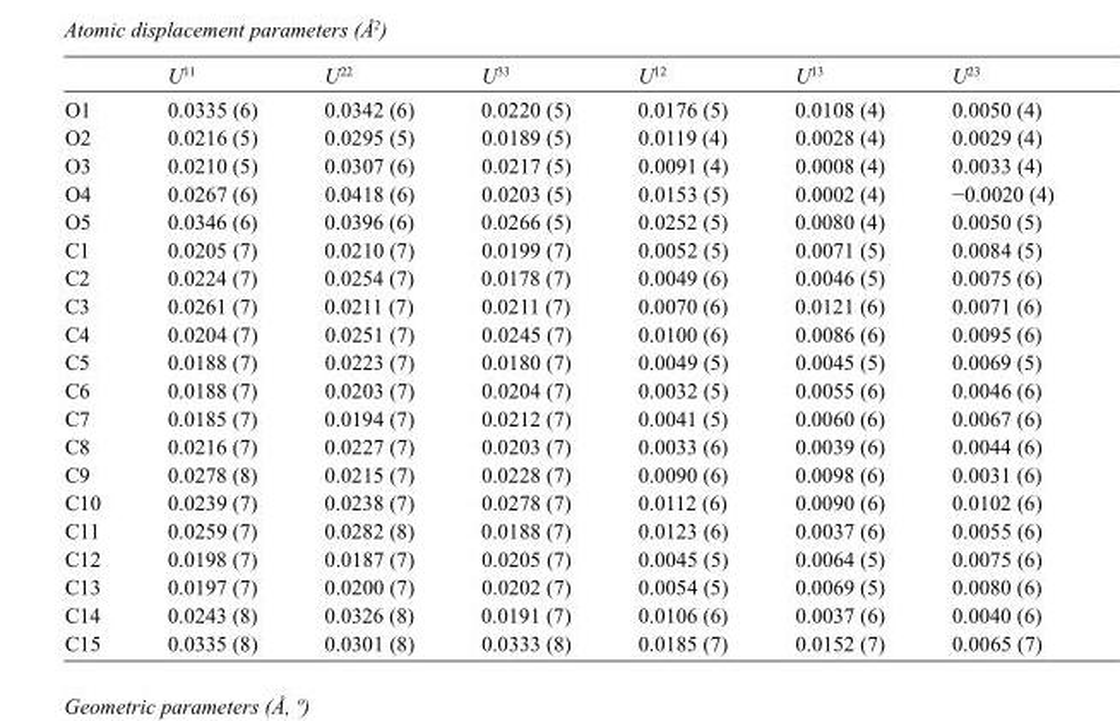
<table><thead><tr><td></td><td>U<sup>11</sup></td><td>U<sup>22</sup></td><td>U<sup>33</sup></td><td>U<sup>12</sup></td><td>U<sup>13</sup></td><td>U<sup>23</sup></td></tr></thead><tbody><tr><td>O1</td><td>0.0335 (6)</td><td>0.0342 (6)</td><td>0.0220 (5)</td><td>0.0176 (5)</td><td>0.0108 (4)</td><td>0.0050 (4)</td></tr><tr><td>O2</td><td>0.0216 (5)</td><td>0.0295 (5)</td><td>0.0189 (5)</td><td>0.0119 (4)</td><td>0.0028 (4)</td><td>0.0029 (4)</td></tr><tr><td>O3</td><td>0.0210 (5)</td><td>0.0307 (6)</td><td>0.0217 (5)</td><td>0.0091 (4)</td><td>0.0008 (4)</td><td>0.0033 (4)</td></tr><tr><td>O4</td><td>0.0267 (6)</td><td>0.0418 (6)</td><td>0.0203 (5)</td><td>0.0153 (5)</td><td>0.0002 (4)</td><td>−0.0020 (4)</td></tr><tr><td>O5</td><td>0.0346 (6)</td><td>0.0396 (6)</td><td>0.0266 (5)</td><td>0.0252 (5)</td><td>0.0080 (4)</td><td>0.0050 (5)</td></tr><tr><td>C1</td><td>0.0205 (7)</td><td>0.0210 (7)</td><td>0.0199 (7)</td><td>0.0052 (5)</td><td>0.0071 (5)</td><td>0.0084 (5)</td></tr><tr><td>C2</td><td>0.0224 (7)</td><td>0.0254 (7)</td><td>0.0178 (7)</td><td>0.0049 (6)</td><td>0.0046 (5)</td><td>0.0075 (6)</td></tr><tr><td>C3</td><td>0.0261 (7)</td><td>0.0211 (7)</td><td>0.0211 (7)</td><td>0.0070 (6)</td><td>0.0121 (6)</td><td>0.0071 (6)</td></tr><tr><td>C4</td><td>0.0204 (7)</td><td>0.0251 (7)</td><td>0.0245 (7)</td><td>0.0100 (6)</td><td>0.0086 (6)</td><td>0.0095 (6)</td></tr><tr><td>C5</td><td>0.0188 (7)</td><td>0.0223 (7)</td><td>0.0180 (7)</td><td>0.0049 (5)</td><td>0.0045 (5)</td><td>0.0069 (5)</td></tr><tr><td>C6</td><td>0.0188 (7)</td><td>0.0203 (7)</td><td>0.0204 (7)</td><td>0.0032 (5)</td><td>0.0055 (6)</td><td>0.0046 (6)</td></tr><tr><td>C7</td><td>0.0185 (7)</td><td>0.0194 (7)</td><td>0.0212 (7)</td><td>0.0041 (5)</td><td>0.0060 (6)</td><td>0.0067 (6)</td></tr><tr><td>C8</td><td>0.0216 (7)</td><td>0.0227 (7)</td><td>0.0203 (7)</td><td>0.0033 (6)</td><td>0.0039 (6)</td><td>0.0044 (6)</td></tr><tr><td>C9</td><td>0.0278 (8)</td><td>0.0215 (7)</td><td>0.0228 (7)</td><td>0.0090 (6)</td><td>0.0098 (6)</td><td>0.0031 (6)</td></tr><tr><td>C10</td><td>0.0239 (7)</td><td>0.0238 (7)</td><td>0.0278 (7)</td><td>0.0112 (6)</td><td>0.0090 (6)</td><td>0.0102 (6)</td></tr><tr><td>C11</td><td>0.0259 (7)</td><td>0.0282 (8)</td><td>0.0188 (7)</td><td>0.0123 (6)</td><td>0.0037 (6)</td><td>0.0055 (6)</td></tr><tr><td>C12</td><td>0.0198 (7)</td><td>0.0187 (7)</td><td>0.0205 (7)</td><td>0.0045 (5)</td><td>0.0064 (5)</td><td>0.0075 (6)</td></tr><tr><td>C13</td><td>0.0197 (7)</td><td>0.0200 (7)</td><td>0.0202 (7)</td><td>0.0054 (5)</td><td>0.0069 (5)</td><td>0.0080 (6)</td></tr><tr><td>C14</td><td>0.0243 (8)</td><td>0.0326 (8)</td><td>0.0191 (7)</td><td>0.0106 (6)</td><td>0.0037 (6)</td><td>0.0040 (6)</td></tr><tr><td>C15</td><td>0.0335 (8)</td><td>0.0301 (8)</td><td>0.0333 (8)</td><td>0.0185 (7)</td><td>0.0152 (7)</td><td>0.0065 (7)</td></tr></tbody></table>